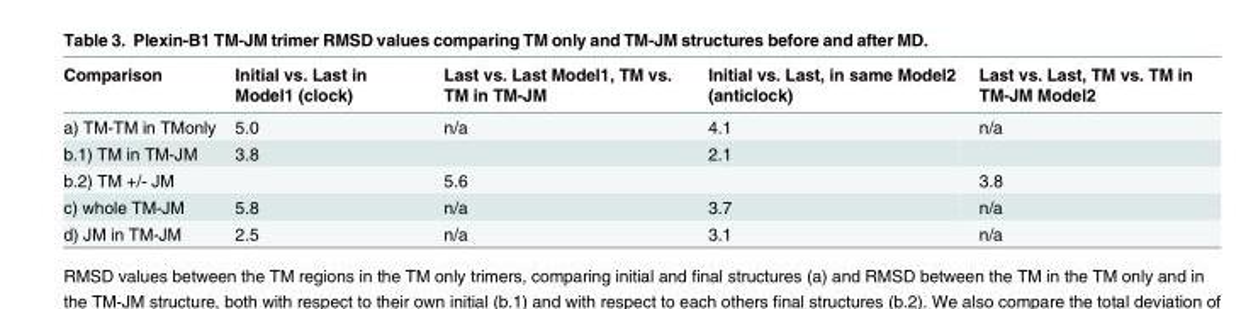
<table><thead><tr><td>Comparison</td><td>Initial vs. Last in Model1 (clock)</td><td>Last vs. Last Model1, TM vs. TM in TM-JM</td><td>Initial vs. Last, in same Model2 (anticlock)</td><td>Last vs. Last, TM vs. TM in TM-JM Model2</td></tr></thead><tbody><tr><td>a) TM-TM in TMonly</td><td>5.0</td><td>n/a</td><td>4.1</td><td>n/a</td></tr><tr><td>b.1) TM in TM-JM</td><td>3.8</td><td></td><td>2.1</td><td></td></tr><tr><td>b.2) TM +/- JM</td><td></td><td>5.6</td><td></td><td>3.8</td></tr><tr><td>c) whole TM-JM</td><td>5.8</td><td>n/a</td><td>3.7</td><td>n/a</td></tr><tr><td>d) JM in TM-JM</td><td>2.5</td><td>n/a</td><td>3.1</td><td>n/a</td></tr></tbody></table>